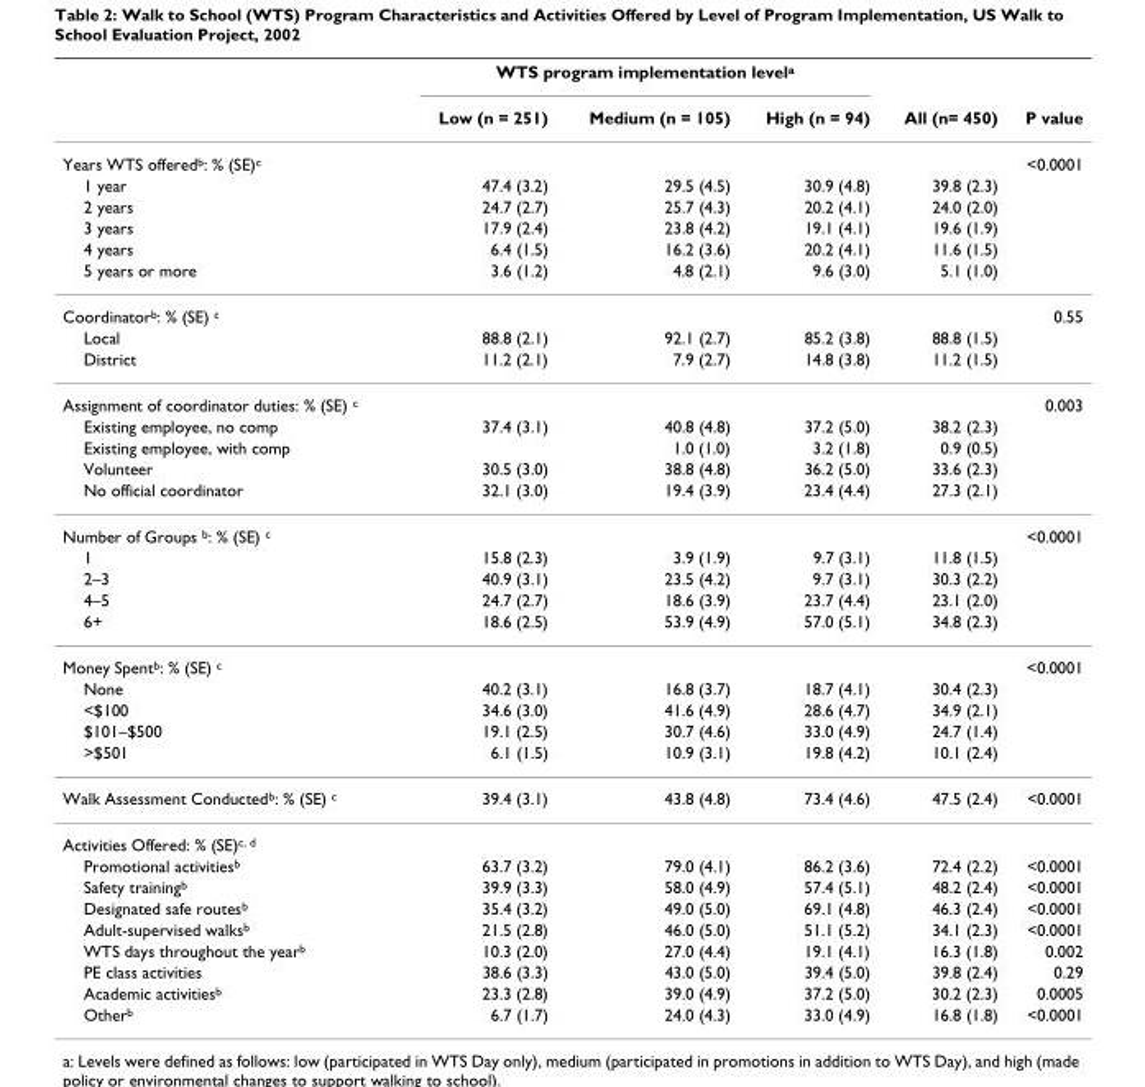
<table><thead><tr><td rowspan="2"></td><td colspan="3">WTS program implementation level<sup>a</sup></td><td rowspan="2">All (n= 450)</td><td rowspan="2">P value</td></tr><tr><td>Low (n = 251)</td><td>Medium (n = 105)</td><td>High (n = 94)</td></tr></thead><tbody><tr><td>Years WTS offered<sup>b</sup>: % (SE)<sup>c</sup></td><td></td><td></td><td></td><td></td><td>&lt;0.0001</td></tr><tr><td>1 year</td><td>47.4 (3.2)</td><td>29.5 (4.5)</td><td>30.9 (4.8)</td><td>39.8 (2.3)</td><td></td></tr><tr><td>2 years</td><td>24.7 (2.7)</td><td>25.7 (4.3)</td><td>20.2 (4.1)</td><td>24.0 (2.0)</td><td></td></tr><tr><td>3 years</td><td>17.9 (2.4)</td><td>23.8 (4.2)</td><td>19.1 (4.1)</td><td>19.6 (1.9)</td><td></td></tr><tr><td>4 years</td><td>6.4 (1.5)</td><td>16.2 (3.6)</td><td>20.2 (4.1)</td><td>11.6 (1.5)</td><td></td></tr><tr><td>5 years or more</td><td>3.6 (1.2)</td><td>4.8 (2.1)</td><td>9.6 (3.0)</td><td>5.1 (1.0)</td><td></td></tr><tr><td>Coordinator<sup>b</sup>: % (SE) <sup>c</sup></td><td></td><td></td><td></td><td></td><td>0.55</td></tr><tr><td>Local</td><td>88.8 (2.1)</td><td>92.1 (2.7)</td><td>85.2 (3.8)</td><td>88.8 (1.5)</td><td></td></tr><tr><td>District</td><td>11.2 (2.1)</td><td>7.9 (2.7)</td><td>14.8 (3.8)</td><td>11.2 (1.5)</td><td></td></tr><tr><td>Assignment of coordinator duties: % (SE) <sup>c</sup></td><td></td><td></td><td></td><td></td><td>0.003</td></tr><tr><td>Existing employee, no comp</td><td>37.4 (3.1)</td><td>40.8 (4.8)</td><td>37.2 (5.0)</td><td>38.2 (2.3)</td><td></td></tr><tr><td>Existing employee, with comp</td><td></td><td>1.0 (1.0)</td><td>3.2 (1.8)</td><td>0.9 (0.5)</td><td></td></tr><tr><td>Volunteer</td><td>30.5 (3.0)</td><td>38.8 (4.8)</td><td>36.2 (5.0)</td><td>33.6 (2.3)</td><td></td></tr><tr><td>No official coordinator</td><td>32.1 (3.0)</td><td>19.4 (3.9)</td><td>23.4 (4.4)</td><td>27.3 (2.1)</td><td></td></tr><tr><td>Number of Groups <sup>b</sup>: % (SE) <sup>c</sup></td><td></td><td></td><td></td><td></td><td>&lt;0.0001</td></tr><tr><td>1</td><td>15.8 (2.3)</td><td>3.9 (1.9)</td><td>9.7 (3.1)</td><td>11.8 (1.5)</td><td></td></tr><tr><td>2–3</td><td>40.9 (3.1)</td><td>23.5 (4.2)</td><td>9.7 (3.1)</td><td>30.3 (2.2)</td><td></td></tr><tr><td>4–5</td><td>24.7 (2.7)</td><td>18.6 (3.9)</td><td>23.7 (4.4)</td><td>23.1 (2.0)</td><td></td></tr><tr><td>6+</td><td>18.6 (2.5)</td><td>53.9 (4.9)</td><td>57.0 (5.1)</td><td>34.8 (2.3)</td><td></td></tr><tr><td>Money Spent<sup>b</sup>: % (SE) <sup>c</sup></td><td></td><td></td><td></td><td></td><td>&lt;0.0001</td></tr><tr><td>None</td><td>40.2 (3.1)</td><td>16.8 (3.7)</td><td>18.7 (4.1)</td><td>30.4 (2.3)</td><td></td></tr><tr><td>&lt;$100</td><td>34.6 (3.0)</td><td>41.6 (4.9)</td><td>28.6 (4.7)</td><td>34.9 (2.1)</td><td></td></tr><tr><td>$101–$500</td><td>19.1 (2.5)</td><td>30.7 (4.6)</td><td>33.0 (4.9)</td><td>24.7 (1.4)</td><td></td></tr><tr><td>&gt;$501</td><td>6.1 (1.5)</td><td>10.9 (3.1)</td><td>19.8 (4.2)</td><td>10.1 (2.4)</td><td></td></tr><tr><td>Walk Assessment Conducted<sup>b</sup>: % (SE) <sup>c</sup></td><td>39.4 (3.1)</td><td>43.8 (4.8)</td><td>73.4 (4.6)</td><td>47.5 (2.4)</td><td>&lt;0.0001</td></tr><tr><td colspan="6">Activities Offered: % (SE)<sup>c, d</sup></td></tr><tr><td>Promotional activities<sup>b</sup></td><td>63.7 (3.2)</td><td>79.0 (4.1)</td><td>86.2 (3.6)</td><td>72.4 (2.2)</td><td>&lt;0.0001</td></tr><tr><td>Safety training<sup>b</sup></td><td>39.9 (3.3)</td><td>58.0 (4.9)</td><td>57.4 (5.1)</td><td>48.2 (2.4)</td><td>&lt;0.0001</td></tr><tr><td>Designated safe routes<sup>b</sup></td><td>35.4 (3.2)</td><td>49.0 (5.0)</td><td>69.1 (4.8)</td><td>46.3 (2.4)</td><td>&lt;0.0001</td></tr><tr><td>Adult-supervised walks<sup>b</sup></td><td>21.5 (2.8)</td><td>46.0 (5.0)</td><td>51.1 (5.2)</td><td>34.1 (2.3)</td><td>&lt;0.0001</td></tr><tr><td>WTS days throughout the year<sup>b</sup></td><td>10.3 (2.0)</td><td>27.0 (4.4)</td><td>19.1 (4.1)</td><td>16.3 (1.8)</td><td>0.002</td></tr><tr><td>PE class activities</td><td>38.6 (3.3)</td><td>43.0 (5.0)</td><td>39.4 (5.0)</td><td>39.8 (2.4)</td><td>0.29</td></tr><tr><td>Academic activities<sup>b</sup></td><td>23.3 (2.8)</td><td>39.0 (4.9)</td><td>37.2 (5.0)</td><td>30.2 (2.3)</td><td>0.0005</td></tr><tr><td>Other<sup>b</sup></td><td>6.7 (1.7)</td><td>24.0 (4.3)</td><td>33.0 (4.9)</td><td>16.8 (1.8)</td><td>&lt;0.0001</td></tr></tbody></table>